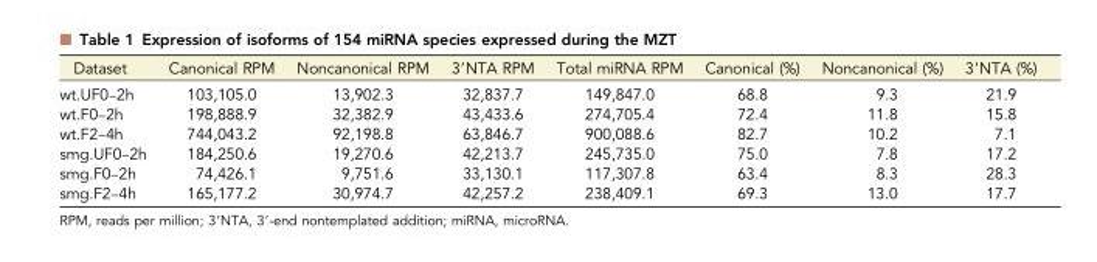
<table><thead><tr><td>Dataset</td><td>Canonical RPM</td><td>Noncanonical RPM</td><td>3′NTA RPM</td><td>Total miRNA RPM</td><td>Canonical (%)</td><td>Noncanonical (%)</td><td>3′NTA (%)</td></tr></thead><tbody><tr><td>wt.UF0–2h</td><td>103,105.0</td><td>13,902.3</td><td>32,837.7</td><td>149,847.0</td><td>68.8</td><td>9.3</td><td>21.9</td></tr><tr><td>wt.F0–2h</td><td>198,888.9</td><td>32,382.9</td><td>43,433.6</td><td>274,705.4</td><td>72.4</td><td>11.8</td><td>15.8</td></tr><tr><td>wt.F2–4h</td><td>744,043.2</td><td>92,198.8</td><td>63,846.7</td><td>900,088.6</td><td>82.7</td><td>10.2</td><td>7.1</td></tr><tr><td>smg.UF0–2h</td><td>184,250.6</td><td>19,270.6</td><td>42,213.7</td><td>245,735.0</td><td>75.0</td><td>7.8</td><td>17.2</td></tr><tr><td>smg.F0–2h</td><td>74,426.1</td><td>9,751.6</td><td>33,130.1</td><td>117,307.8</td><td>63.4</td><td>8.3</td><td>28.3</td></tr><tr><td>smg.F2–4h</td><td>165,177.2</td><td>30,974.7</td><td>42,257.2</td><td>238,409.1</td><td>69.3</td><td>13.0</td><td>17.7</td></tr></tbody></table>